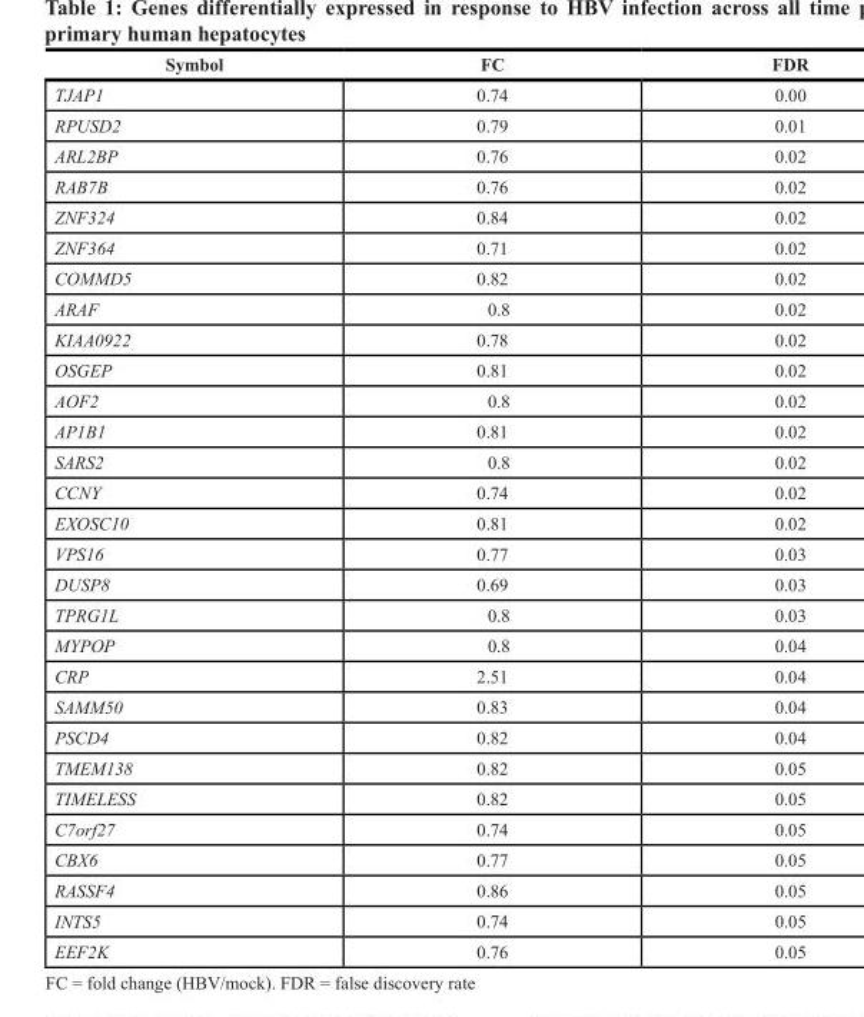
<table><thead><tr><td>Symbol</td><td>FC</td><td>FDR</td></tr></thead><tbody><tr><td>TJAP1</td><td>0.74</td><td>0.00</td></tr><tr><td>RPUSD2</td><td>0.79</td><td>0.01</td></tr><tr><td>ARL2BP</td><td>0.76</td><td>0.02</td></tr><tr><td>RAB7B</td><td>0.76</td><td>0.02</td></tr><tr><td>ZNF324</td><td>0.84</td><td>0.02</td></tr><tr><td>ZNF364</td><td>0.71</td><td>0.02</td></tr><tr><td>COMMD5</td><td>0.82</td><td>0.02</td></tr><tr><td>ARAF</td><td>0.8</td><td>0.02</td></tr><tr><td>KIAA0922</td><td>0.78</td><td>0.02</td></tr><tr><td>OSGEP</td><td>0.81</td><td>0.02</td></tr><tr><td>AOF2</td><td>0.8</td><td>0.02</td></tr><tr><td>AP1B1</td><td>0.81</td><td>0.02</td></tr><tr><td>SARS2</td><td>0.8</td><td>0.02</td></tr><tr><td>CCNY</td><td>0.74</td><td>0.02</td></tr><tr><td>EXOSC10</td><td>0.81</td><td>0.02</td></tr><tr><td>VPS16</td><td>0.77</td><td>0.03</td></tr><tr><td>DUSP8</td><td>0.69</td><td>0.03</td></tr><tr><td>TPRG1L</td><td>0.8</td><td>0.03</td></tr><tr><td>MYPOP</td><td>0.8</td><td>0.04</td></tr><tr><td>CRP</td><td>2.51</td><td>0.04</td></tr><tr><td>SAMM50</td><td>0.83</td><td>0.04</td></tr><tr><td>PSCD4</td><td>0.82</td><td>0.04</td></tr><tr><td>TMEM138</td><td>0.82</td><td>0.05</td></tr><tr><td>TIMELESS</td><td>0.82</td><td>0.05</td></tr><tr><td>C7orf27</td><td>0.74</td><td>0.05</td></tr><tr><td>CBX6</td><td>0.77</td><td>0.05</td></tr><tr><td>RASSF4</td><td>0.86</td><td>0.05</td></tr><tr><td>INTS5</td><td>0.74</td><td>0.05</td></tr><tr><td>EEF2K</td><td>0.76</td><td>0.05</td></tr></tbody></table>